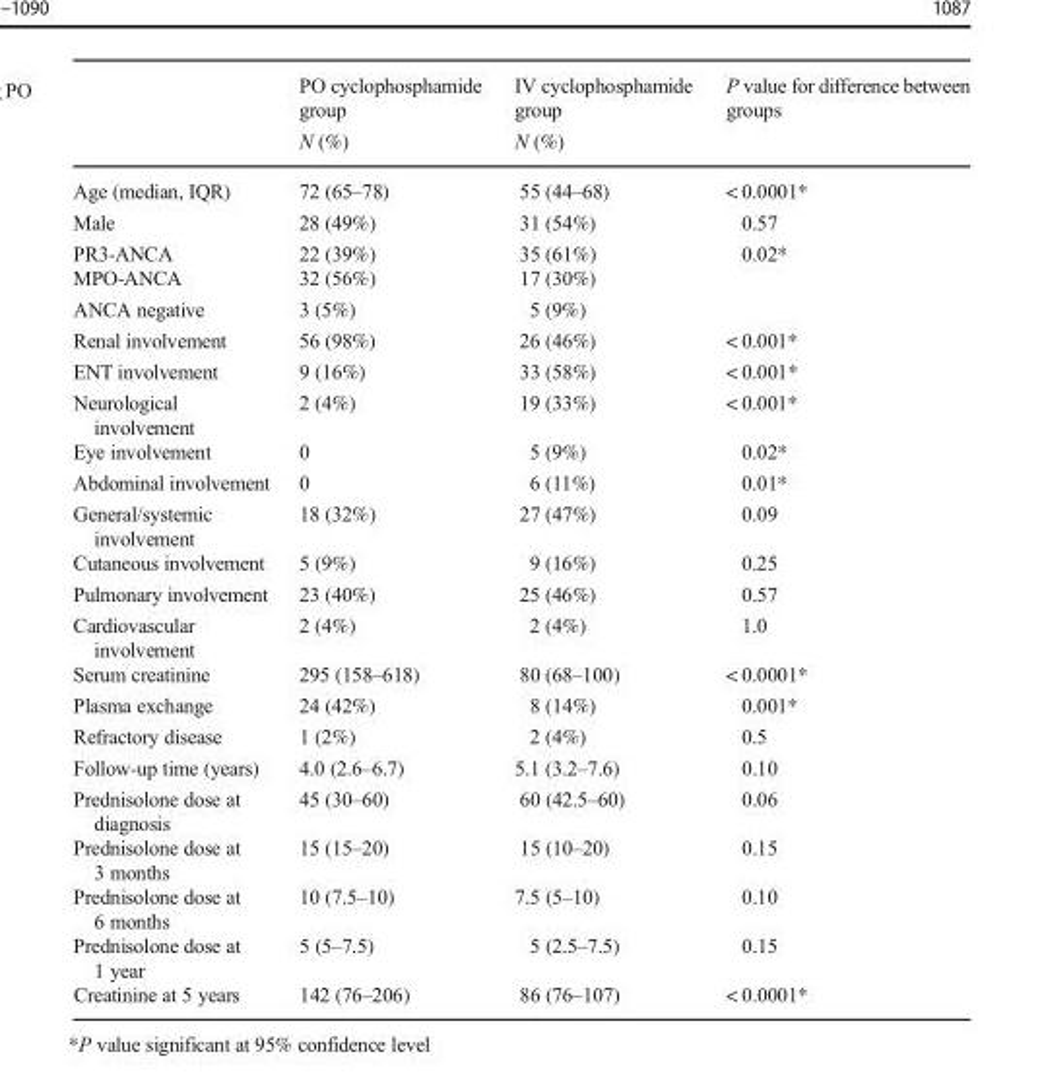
<table><thead><tr><td></td><td>PO cyclophosphamide group N (%)</td><td>IV cyclophosphamide group N (%)</td><td>P value for difference between groups</td></tr></thead><tbody><tr><td>Age (median, IQR)</td><td>72 (65–78)</td><td>55 (44–68)</td><td>&lt; 0.0001*</td></tr><tr><td>Male</td><td>28 (49%)</td><td>31 (54%)</td><td>0.57</td></tr><tr><td>PR3-ANCA</td><td>22 (39%)</td><td>35 (61%)</td><td rowspan="3">0.02*</td></tr><tr><td>MPO-ANCA</td><td>32 (56%)</td><td>17 (30%)</td></tr><tr><td>ANCA negative</td><td>3 (5%)</td><td>5 (9%)</td></tr><tr><td>Renal involvement</td><td>56 (98%)</td><td>26 (46%)</td><td>&lt; 0.001*</td></tr><tr><td>ENT involvement</td><td>9 (16%)</td><td>33 (58%)</td><td>&lt; 0.001*</td></tr><tr><td>Neurological involvement</td><td>2 (4%)</td><td>19 (33%)</td><td>&lt; 0.001*</td></tr><tr><td>Eye involvement</td><td>0</td><td>5 (9%)</td><td>0.02*</td></tr><tr><td>Abdominal involvement</td><td>0</td><td>6 (11%)</td><td>0.01*</td></tr><tr><td>General/systemic involvement</td><td>18 (32%)</td><td>27 (47%)</td><td>0.09</td></tr><tr><td>Cutaneous involvement</td><td>5 (9%)</td><td>9 (16%)</td><td>0.25</td></tr><tr><td>Pulmonary involvement</td><td>23 (40%)</td><td>25 (46%)</td><td>0.57</td></tr><tr><td>Cardiovascular involvement</td><td>2 (4%)</td><td>2 (4%)</td><td>1.0</td></tr><tr><td>Serum creatinine</td><td>295 (158–618)</td><td>80 (68–100)</td><td>&lt; 0.0001*</td></tr><tr><td>Plasma exchange</td><td>24 (42%)</td><td>8 (14%)</td><td>0.001*</td></tr><tr><td>Refractory disease</td><td>1 (2%)</td><td>2 (4%)</td><td>0.5</td></tr><tr><td>Follow-up time (years)</td><td>4.0 (2.6–6.7)</td><td>5.1 (3.2–7.6)</td><td>0.10</td></tr><tr><td>Prednisolone dose at diagnosis</td><td>45 (30–60)</td><td>60 (42.5–60)</td><td>0.06</td></tr><tr><td>Prednisolone dose at 3 months</td><td>15 (15–20)</td><td>15 (10–20)</td><td>0.15</td></tr><tr><td>Prednisolone dose at 6 months</td><td>10 (7.5–10)</td><td>7.5 (5–10)</td><td>0.10</td></tr><tr><td>Prednisolone dose at 1 year</td><td>5 (5–7.5)</td><td>5 (2.5–7.5)</td><td>0.15</td></tr><tr><td>Creatinine at 5 years</td><td>142 (76–206)</td><td>86 (76–107)</td><td>&lt; 0.0001*</td></tr></tbody></table>